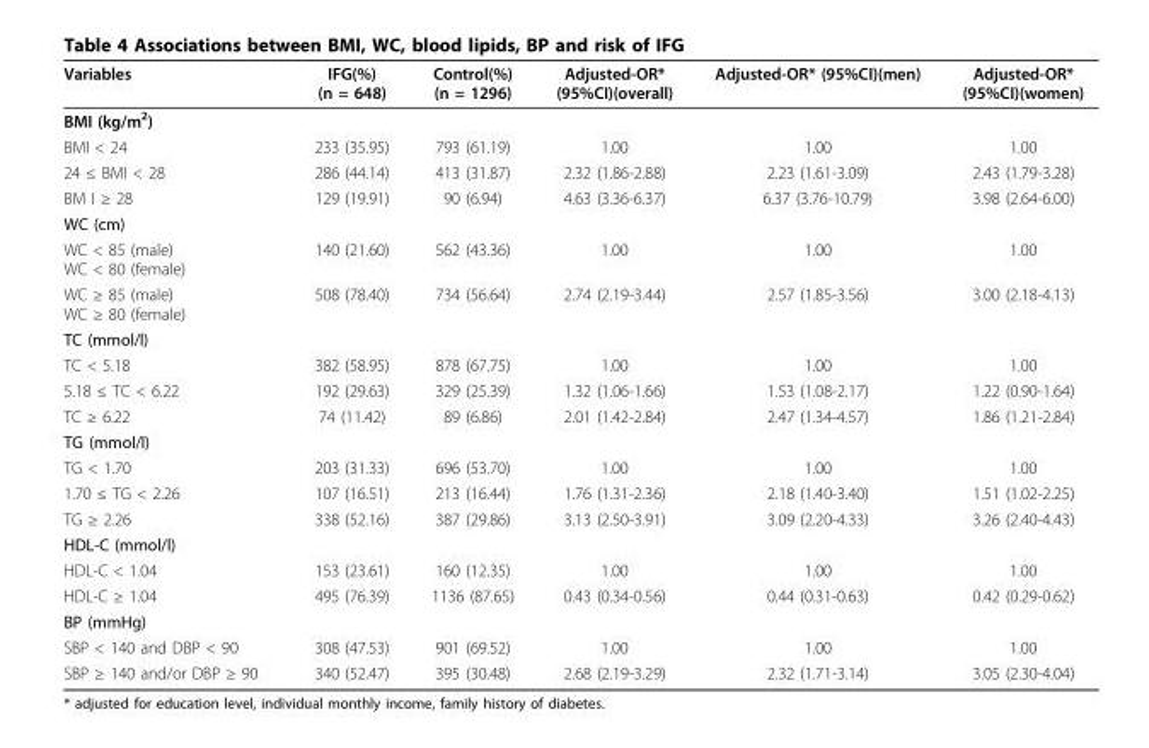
<table><thead><tr><td>Variables</td><td>IFG(%) (n = 648)</td><td>Control(%) (n = 1296)</td><td>Adjusted-OR* (95%CI)(overall)</td><td>Adjusted-OR* (95%CI)(men)</td><td>Adjusted-OR* (95%CI)(women)</td></tr></thead><tbody><tr><td colspan="6">BMI (kg/m<sup>2</sup>)</td></tr><tr><td>BMI &lt; 24</td><td>233 (35.95)</td><td>793 (61.19)</td><td>1.00</td><td>1.00</td><td>1.00</td></tr><tr><td>24 ≤ BMI &lt; 28</td><td>286 (44.14)</td><td>413 (31.87)</td><td>2.32 (1.86-2.88)</td><td>2.23 (1.61-3.09)</td><td>2.43 (1.79-3.28)</td></tr><tr><td>BM I ≥ 28</td><td>129 (19.91)</td><td>90 (6.94)</td><td>4.63 (3.36-6.37)</td><td>6.37 (3.76-10.79)</td><td>3.98 (2.64-6.00)</td></tr><tr><td colspan="6">WC (cm)</td></tr><tr><td>WC &lt; 85 (male) WC &lt; 80 (female)</td><td>140 (21.60)</td><td>562 (43.36)</td><td>1.00</td><td>1.00</td><td>1.00</td></tr><tr><td>WC ≥ 85 (male) WC ≥ 80 (female)</td><td>508 (78.40)</td><td>734 (56.64)</td><td>2.74 (2.19-3.44)</td><td>2.57 (1.85-3.56)</td><td>3.00 (2.18-4.13)</td></tr><tr><td colspan="6">TC (mmol/l)</td></tr><tr><td>TC &lt; 5.18</td><td>382 (58.95)</td><td>878 (67.75)</td><td>1.00</td><td>1.00</td><td>1.00</td></tr><tr><td>5.18 ≤ TC &lt; 6.22</td><td>192 (29.63)</td><td>329 (25.39)</td><td>1.32 (1.06-1.66)</td><td>1.53 (1.08-2.17)</td><td>1.22 (0.90-1.64)</td></tr><tr><td>TC ≥ 6.22</td><td>74 (11.42)</td><td>89 (6.86)</td><td>2.01 (1.42-2.84)</td><td>2.47 (1.34-4.57)</td><td>1.86 (1.21-2.84)</td></tr><tr><td colspan="6">TG (mmol/l)</td></tr><tr><td>TG &lt; 1.70</td><td>203 (31.33)</td><td>696 (53.70)</td><td>1.00</td><td>1.00</td><td>1.00</td></tr><tr><td>1.70 ≤ TG &lt; 2.26</td><td>107 (16.51)</td><td>213 (16.44)</td><td>1.76 (1.31-2.36)</td><td>2.18 (1.40-3.40)</td><td>1.51 (1.02-2.25)</td></tr><tr><td>TG ≥ 2.26</td><td>338 (52.16)</td><td>387 (29.86)</td><td>3.13 (2.50-3.91)</td><td>3.09 (2.20-4.33)</td><td>3.26 (2.40-4.43)</td></tr><tr><td colspan="6">HDL-C (mmol/l)</td></tr><tr><td>HDL-C &lt; 1.04</td><td>153 (23.61)</td><td>160 (12.35)</td><td>1.00</td><td>1.00</td><td>1.00</td></tr><tr><td>HDL-C ≥ 1.04</td><td>495 (76.39)</td><td>1136 (87.65)</td><td>0.43 (0.34-0.56)</td><td>0.44 (0.31-0.63)</td><td>0.42 (0.29-0.62)</td></tr><tr><td colspan="6">BP (mmHg)</td></tr><tr><td>SBP &lt; 140 and DBP &lt; 90</td><td>308 (47.53)</td><td>901 (69.52)</td><td>1.00</td><td>1.00</td><td>1.00</td></tr><tr><td>SBP ≥ 140 and/or DBP ≥ 90</td><td>340 (52.47)</td><td>395 (30.48)</td><td>2.68 (2.19-3.29)</td><td>2.32 (1.71-3.14)</td><td>3.05 (2.30-4.04)</td></tr></tbody></table>